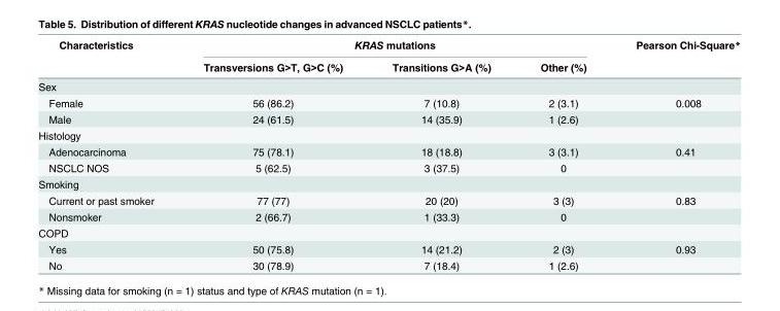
<table><thead><tr><td rowspan="2">Characteristics</td><td colspan="3">KRAS mutations</td><td rowspan="2">Pearson Chi-Square*</td></tr><tr><td>Transversions G&gt;T, G&gt;C (%)</td><td>Transitions G&gt;A (%)</td><td>Other (%)</td></tr></thead><tbody><tr><td colspan="5">Sex</td></tr><tr><td>Female</td><td>56 (86.2)</td><td>7 (10.8)</td><td>2 (3.1)</td><td>0.008</td></tr><tr><td>Male</td><td>24 (61.5)</td><td>14 (35.9)</td><td>1 (2.6)</td><td></td></tr><tr><td colspan="5">Histology</td></tr><tr><td>Adenocarcinoma</td><td>75 (78.1)</td><td>18 (18.8)</td><td>3 (3.1)</td><td>0.41</td></tr><tr><td>NSCLC NOS</td><td>5 (62.5)</td><td>3 (37.5)</td><td>0</td><td></td></tr><tr><td colspan="5">Smoking</td></tr><tr><td>Current or past smoker</td><td>77 (77)</td><td>20 (20)</td><td>3 (3)</td><td>0.83</td></tr><tr><td>Nonsmoker</td><td>2 (66.7)</td><td>1 (33.3)</td><td>0</td><td></td></tr><tr><td colspan="5">COPD</td></tr><tr><td>Yes</td><td>50 (75.8)</td><td>14 (21.2)</td><td>2 (3)</td><td>0.93</td></tr><tr><td>No</td><td>30 (78.9)</td><td>7 (18.4)</td><td>1 (2.6)</td><td></td></tr></tbody></table>